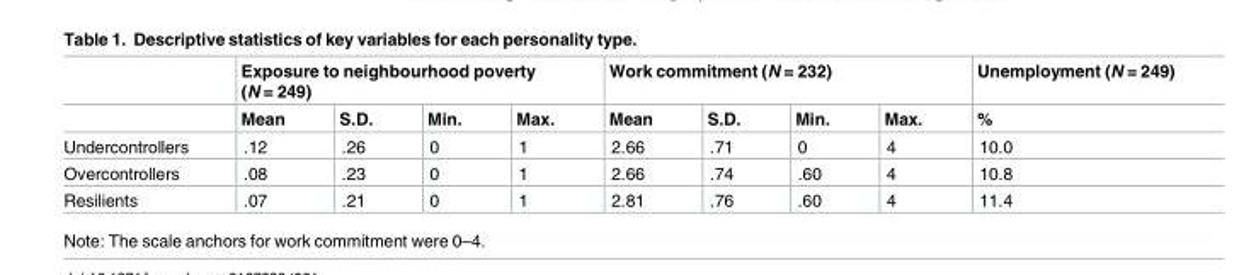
<table><thead><tr><td rowspan="2"></td><td colspan="4">Exposure to neighbourhood poverty (N = 249)</td><td colspan="4">Work commitment (N = 232)</td><td rowspan="2">Unemployment (N = 249) %</td></tr><tr><td>Mean</td><td>S.D.</td><td>Min.</td><td>Max.</td><td>Mean</td><td>S.D.</td><td>Min.</td><td>Max.</td></tr></thead><tbody><tr><td>Undercontrollers</td><td>.12</td><td>.26</td><td>0</td><td>1</td><td>2.66</td><td>.71</td><td>0</td><td>4</td><td>10.0</td></tr><tr><td>Overcontrollers</td><td>.08</td><td>.23</td><td>0</td><td>1</td><td>2.66</td><td>.74</td><td>.60</td><td>4</td><td>10.8</td></tr><tr><td>Resilients</td><td>.07</td><td>.21</td><td>0</td><td>1</td><td>2.81</td><td>.76</td><td>.60</td><td>4</td><td>11.4</td></tr></tbody></table>